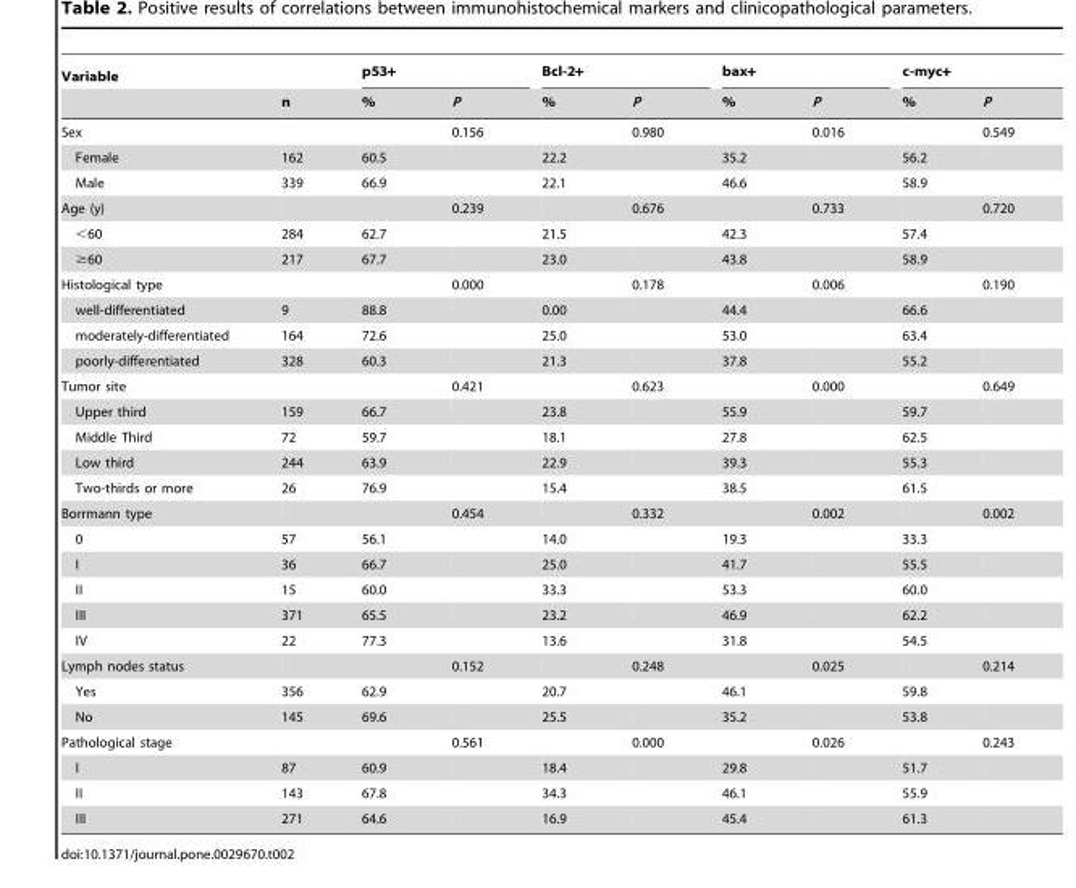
<table><thead><tr><td rowspan="2">Variable</td><td rowspan="2">n</td><td colspan="2">p53+</td><td colspan="2">Bcl-2+</td><td colspan="2">bax+</td><td colspan="2">c-myc+</td></tr><tr><td>%</td><td>P</td><td>%</td><td>P</td><td>%</td><td>P</td><td>%</td><td>P</td></tr></thead><tbody><tr><td>Sex</td><td></td><td></td><td>0.156</td><td></td><td>0.980</td><td></td><td>0.016</td><td></td><td>0.549</td></tr><tr><td>Female</td><td>162</td><td>60.5</td><td></td><td>22.2</td><td></td><td>35.2</td><td></td><td>56.2</td><td></td></tr><tr><td>Male</td><td>339</td><td>66.9</td><td></td><td>22.1</td><td></td><td>46.6</td><td></td><td>58.9</td><td></td></tr><tr><td>Age (y)</td><td></td><td></td><td>0.239</td><td></td><td>0.676</td><td></td><td>0.733</td><td></td><td>0.720</td></tr><tr><td>&lt;60</td><td>284</td><td>62.7</td><td></td><td>21.5</td><td></td><td>42.3</td><td></td><td>57.4</td><td></td></tr><tr><td>≥60</td><td>217</td><td>67.7</td><td></td><td>23.0</td><td></td><td>43.8</td><td></td><td>58.9</td><td></td></tr><tr><td>Histological type</td><td></td><td></td><td>0.000</td><td></td><td>0.178</td><td></td><td>0.006</td><td></td><td>0.190</td></tr><tr><td>well-differentiated</td><td>9</td><td>88.8</td><td></td><td>0.00</td><td></td><td>44.4</td><td></td><td>66.6</td><td></td></tr><tr><td>moderately-differentiated</td><td>164</td><td>72.6</td><td></td><td>25.0</td><td></td><td>53.0</td><td></td><td>63.4</td><td></td></tr><tr><td>poorly-differentiated</td><td>328</td><td>60.3</td><td></td><td>21.3</td><td></td><td>37.8</td><td></td><td>55.2</td><td></td></tr><tr><td>Tumor site</td><td></td><td></td><td>0.421</td><td></td><td>0.623</td><td></td><td>0.000</td><td></td><td>0.649</td></tr><tr><td>Upper third</td><td>159</td><td>66.7</td><td></td><td>23.8</td><td></td><td>55.9</td><td></td><td>59.7</td><td></td></tr><tr><td>Middle Third</td><td>72</td><td>59.7</td><td></td><td>18.1</td><td></td><td>27.8</td><td></td><td>62.5</td><td></td></tr><tr><td>Low third</td><td>244</td><td>63.9</td><td></td><td>22.9</td><td></td><td>39.3</td><td></td><td>55.3</td><td></td></tr><tr><td>Two-thirds or more</td><td>26</td><td>76.9</td><td></td><td>15.4</td><td></td><td>38.5</td><td></td><td>61.5</td><td></td></tr><tr><td>Borrmann type</td><td></td><td></td><td>0.454</td><td></td><td>0.332</td><td></td><td>0.002</td><td></td><td>0.002</td></tr><tr><td>0</td><td>57</td><td>56.1</td><td></td><td>14.0</td><td></td><td>19.3</td><td></td><td>33.3</td><td></td></tr><tr><td>I</td><td>36</td><td>66.7</td><td></td><td>25.0</td><td></td><td>41.7</td><td></td><td>55.5</td><td></td></tr><tr><td>II</td><td>15</td><td>60.0</td><td></td><td>33.3</td><td></td><td>53.3</td><td></td><td>60.0</td><td></td></tr><tr><td>III</td><td>371</td><td>65.5</td><td></td><td>23.2</td><td></td><td>46.9</td><td></td><td>62.2</td><td></td></tr><tr><td>IV</td><td>22</td><td>77.3</td><td></td><td>13.6</td><td></td><td>31.8</td><td></td><td>54.5</td><td></td></tr><tr><td>Lymph nodes status</td><td></td><td></td><td>0.152</td><td></td><td>0.248</td><td></td><td>0.025</td><td></td><td>0.214</td></tr><tr><td>Yes</td><td>356</td><td>62.9</td><td></td><td>20.7</td><td></td><td>46.1</td><td></td><td>59.8</td><td></td></tr><tr><td>No</td><td>145</td><td>69.6</td><td></td><td>25.5</td><td></td><td>35.2</td><td></td><td>53.8</td><td></td></tr><tr><td>Pathological stage</td><td></td><td></td><td>0.561</td><td></td><td>0.000</td><td></td><td>0.026</td><td></td><td>0.243</td></tr><tr><td>I</td><td>87</td><td>60.9</td><td></td><td>18.4</td><td></td><td>29.8</td><td></td><td>51.7</td><td></td></tr><tr><td>II</td><td>143</td><td>67.8</td><td></td><td>34.3</td><td></td><td>46.1</td><td></td><td>55.9</td><td></td></tr><tr><td>III</td><td>271</td><td>64.6</td><td></td><td>16.9</td><td></td><td>45.4</td><td></td><td>61.3</td><td></td></tr></tbody></table>